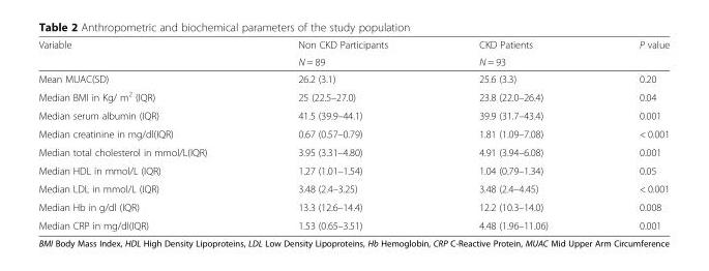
<table><thead><tr><td rowspan="2">Variable</td><td rowspan="2">Non CKD Participants N = 89</td><td rowspan="2">CKD Patients N = 93</td><td rowspan="2">P value</td></tr><tr></tr></thead><tbody><tr><td>Mean MUAC(SD)</td><td>26.2 (3.1)</td><td>25.6 (3.3)</td><td>0.20</td></tr><tr><td>Median BMI in Kg/ m<sup>2</sup> (IQR)</td><td>25 (22.5–27.0)</td><td>23.8 (22.0–26.4)</td><td>0.04</td></tr><tr><td>Median serum albumin (IQR)</td><td>41.5 (39.9–44.1)</td><td>39.9 (31.7–43.4)</td><td>0.001</td></tr><tr><td>Median creatinine in mg/dl(IQR)</td><td>0.67 (0.57–0.79)</td><td>1.81 (1.09–7.08)</td><td>&lt; 0.001</td></tr><tr><td>Median total cholesterol in mmol/L(IQR)</td><td>3.95 (3.31–4.80)</td><td>4.91 (3.94–6.08)</td><td>0.001</td></tr><tr><td>Median HDL in mmol/L (IQR)</td><td>1.27 (1.01–1.54)</td><td>1.04 (0.79–1.34)</td><td>0.05</td></tr><tr><td>Median LDL in mmol/L (IQR)</td><td>3.48 (2.4–3.25)</td><td>3.48 (2.4–4.45)</td><td>&lt; 0.001</td></tr><tr><td>Median Hb in g/dl (IQR)</td><td>13.3 (12.6–14.4)</td><td>12.2 (10.3–14.0)</td><td>0.008</td></tr><tr><td>Median CRP in mg/dl(IQR)</td><td>1.53 (0.65–3.51)</td><td>4.48 (1.96–11.06)</td><td>0.001</td></tr></tbody></table>